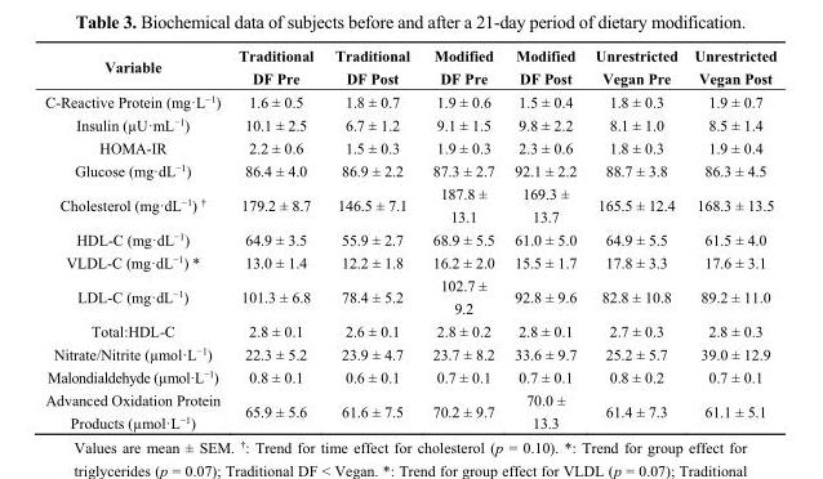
<table><thead><tr><td>Variable</td><td>Traditional DF Pre</td><td>Traditional DF Post</td><td>Modified DF Pre</td><td>Modified DF Post</td><td>Unrestricted Vegan Pre</td><td>Unrestricted Vegan Post</td></tr></thead><tbody><tr><td>C-Reactive Protein (mg·L<sup>−1</sup>)</td><td>1.6 ± 0.5</td><td>1.8 ± 0.7</td><td>1.9 ± 0.6</td><td>1.5 ± 0.4</td><td>1.8 ± 0.3</td><td>1.9 ± 0.7</td></tr><tr><td>Insulin (µU·mL<sup>−1</sup>)</td><td>10.1 ± 2.5</td><td>6.7 ± 1.2</td><td>9.1 ± 1.5</td><td>9.8 ± 2.2</td><td>8.1 ± 1.0</td><td>8.5 ± 1.4</td></tr><tr><td>HOMA-IR</td><td>2.2 ± 0.6</td><td>1.5 ± 0.3</td><td>1.9 ± 0.3</td><td>2.3 ± 0.6</td><td>1.8 ± 0.3</td><td>1.9 ± 0.4</td></tr><tr><td>Glucose (mg·dL<sup>−1</sup>)</td><td>86.4 ± 4.0</td><td>86.9 ± 2.2</td><td>87.3 ± 2.7</td><td>92.1 ± 2.2</td><td>88.7 ± 3.8</td><td>86.3 ± 4.5</td></tr><tr><td>Cholesterol (mg·dL<sup>−1</sup>) <sup>†</sup></td><td>179.2 ± 8.7</td><td>146.5 ± 7.1</td><td>187.8 ± 13.1</td><td>169.3 ± 13.7</td><td>165.5 ± 12.4</td><td>168.3 ± 13.5</td></tr><tr><td>HDL-C (mg·dL<sup>−1</sup>)</td><td>64.9 ± 3.5</td><td>55.9 ± 2.7</td><td>68.9 ± 5.5</td><td>61.0 ± 5.0</td><td>64.9 ± 5.5</td><td>61.5 ± 4.0</td></tr><tr><td>VLDL-C (mg·dL<sup>−1</sup>) *</td><td>13.0 ± 1.4</td><td>12.2 ± 1.8</td><td>16.2 ± 2.0</td><td>15.5 ± 1.7</td><td>17.8 ± 3.3</td><td>17.6 ± 3.1</td></tr><tr><td>LDL-C (mg·dL<sup>−1</sup>)</td><td>101.3 ± 6.8</td><td>78.4 ± 5.2</td><td>102.7 ± 9.2</td><td>92.8 ± 9.6</td><td>82.8 ± 10.8</td><td>89.2 ± 11.0</td></tr><tr><td>Total:HDL-C</td><td>2.8 ± 0.1</td><td>2.6 ± 0.1</td><td>2.8 ± 0.2</td><td>2.8 ± 0.1</td><td>2.7 ± 0.3</td><td>2.8 ± 0.3</td></tr><tr><td>Nitrate/Nitrite (µmol·L<sup>−1</sup>)</td><td>22.3 ± 5.2</td><td>23.9 ± 4.7</td><td>23.7 ± 8.2</td><td>33.6 ± 9.7</td><td>25.2 ± 5.7</td><td>39.0 ± 12.9</td></tr><tr><td>Malondialdehyde (µmol·L<sup>−1</sup>)</td><td>0.8 ± 0.1</td><td>0.6 ± 0.1</td><td>0.7 ± 0.1</td><td>0.7 ± 0.1</td><td>0.8 ± 0.2</td><td>0.7 ± 0.1</td></tr><tr><td>Advanced Oxidation Protein Products (µmol·L<sup>−1</sup>)</td><td>65.9 ± 5.6</td><td>61.6 ± 7.5</td><td>70.2 ± 9.7</td><td>70.0 ± 13.3</td><td>61.4 ± 7.3</td><td>61.1 ± 5.1</td></tr></tbody></table>